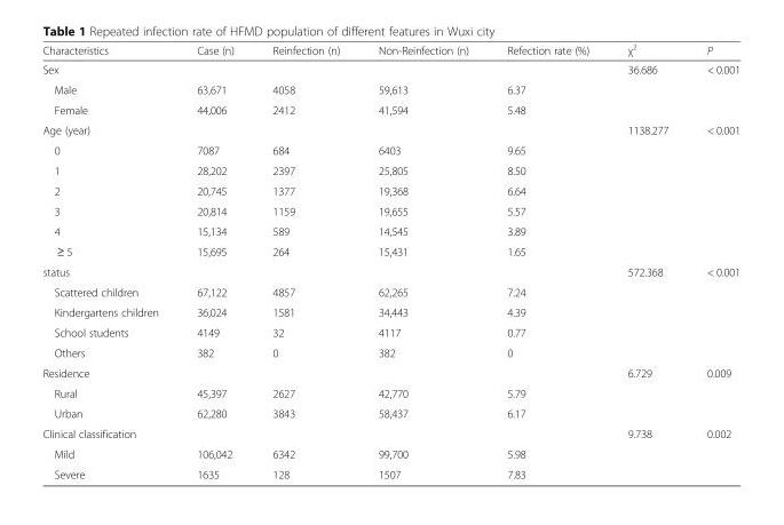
<table><thead><tr><td>Characteristics</td><td>Case (n)</td><td>Reinfection (n)</td><td>Non-Reinfection (n)</td><td>Refection rate (%)</td><td>χ<sup>2</sup></td><td>P</td></tr></thead><tbody><tr><td>Sex</td><td></td><td></td><td></td><td></td><td>36.686</td><td>&lt; 0.001</td></tr><tr><td>Male</td><td>63,671</td><td>4058</td><td>59,613</td><td>6.37</td><td></td><td></td></tr><tr><td>Female</td><td>44,006</td><td>2412</td><td>41,594</td><td>5.48</td><td></td><td></td></tr><tr><td>Age (year)</td><td></td><td></td><td></td><td></td><td>1138.277</td><td>&lt; 0.001</td></tr><tr><td>0</td><td>7087</td><td>684</td><td>6403</td><td>9.65</td><td></td><td></td></tr><tr><td>1</td><td>28,202</td><td>2397</td><td>25,805</td><td>8.50</td><td></td><td></td></tr><tr><td>2</td><td>20,745</td><td>1377</td><td>19,368</td><td>6.64</td><td></td><td></td></tr><tr><td>3</td><td>20,814</td><td>1159</td><td>19,655</td><td>5.57</td><td></td><td></td></tr><tr><td>4</td><td>15,134</td><td>589</td><td>14,545</td><td>3.89</td><td></td><td></td></tr><tr><td>≥ 5</td><td>15,695</td><td>264</td><td>15,431</td><td>1.65</td><td></td><td></td></tr><tr><td>status</td><td></td><td></td><td></td><td></td><td>572.368</td><td>&lt; 0.001</td></tr><tr><td>Scattered children</td><td>67,122</td><td>4857</td><td>62,265</td><td>7.24</td><td></td><td></td></tr><tr><td>Kindergartens children</td><td>36,024</td><td>1581</td><td>34,443</td><td>4.39</td><td></td><td></td></tr><tr><td>School students</td><td>4149</td><td>32</td><td>4117</td><td>0.77</td><td></td><td></td></tr><tr><td>Others</td><td>382</td><td>0</td><td>382</td><td>0</td><td></td><td></td></tr><tr><td>Residence</td><td></td><td></td><td></td><td></td><td>6.729</td><td>0.009</td></tr><tr><td>Rural</td><td>45,397</td><td>2627</td><td>42,770</td><td>5.79</td><td></td><td></td></tr><tr><td>Urban</td><td>62,280</td><td>3843</td><td>58,437</td><td>6.17</td><td></td><td></td></tr><tr><td>Clinical classification</td><td></td><td></td><td></td><td></td><td>9.738</td><td>0.002</td></tr><tr><td>Mild</td><td>106,042</td><td>6342</td><td>99,700</td><td>5.98</td><td></td><td></td></tr><tr><td>Severe</td><td>1635</td><td>128</td><td>1507</td><td>7.83</td><td></td><td></td></tr></tbody></table>